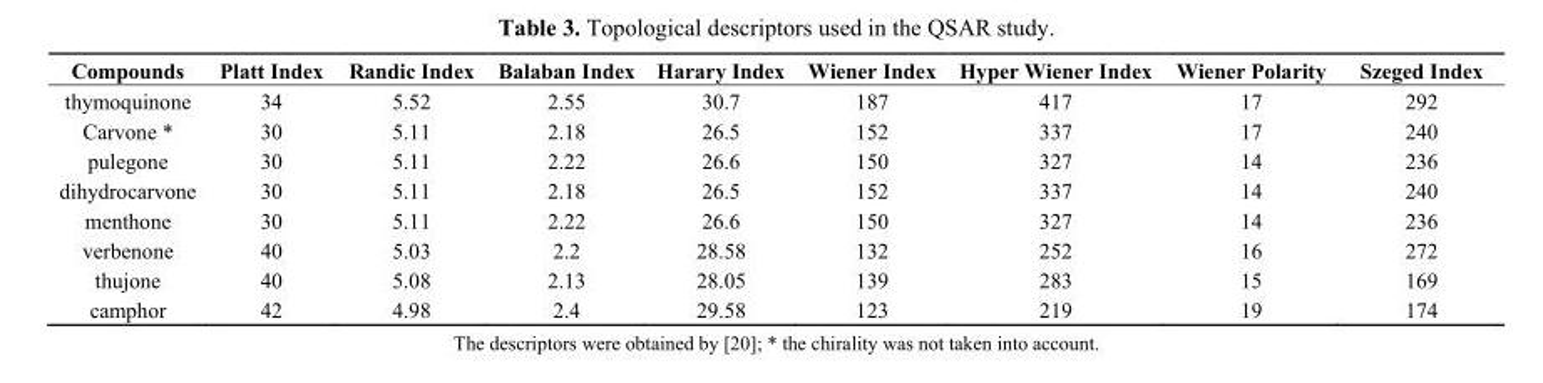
<table><thead><tr><td>Compounds</td><td>Platt Index</td><td>Randic Index</td><td>Balaban Index</td><td>Harary Index</td><td>Wiener Index</td><td>Hyper Wiener Index</td><td>Wiener Polarity</td><td>Szeged Index</td></tr></thead><tbody><tr><td>thymoquinone</td><td>34</td><td>5.52</td><td>2.55</td><td>30.7</td><td>187</td><td>417</td><td>17</td><td>292</td></tr><tr><td>Carvone *</td><td>30</td><td>5.11</td><td>2.18</td><td>26.5</td><td>152</td><td>337</td><td>17</td><td>240</td></tr><tr><td>pulegone</td><td>30</td><td>5.11</td><td>2.22</td><td>26.6</td><td>150</td><td>327</td><td>14</td><td>236</td></tr><tr><td>dihydrocarvone</td><td>30</td><td>5.11</td><td>2.18</td><td>26.5</td><td>152</td><td>337</td><td>14</td><td>240</td></tr><tr><td>menthone</td><td>30</td><td>5.11</td><td>2.22</td><td>26.6</td><td>150</td><td>327</td><td>14</td><td>236</td></tr><tr><td>verbenone</td><td>40</td><td>5.03</td><td>2.2</td><td>28.58</td><td>132</td><td>252</td><td>16</td><td>272</td></tr><tr><td>thujone</td><td>40</td><td>5.08</td><td>2.13</td><td>28.05</td><td>139</td><td>283</td><td>15</td><td>169</td></tr><tr><td>camphor</td><td>42</td><td>4.98</td><td>2.4</td><td>29.58</td><td>123</td><td>219</td><td>19</td><td>174</td></tr></tbody></table>